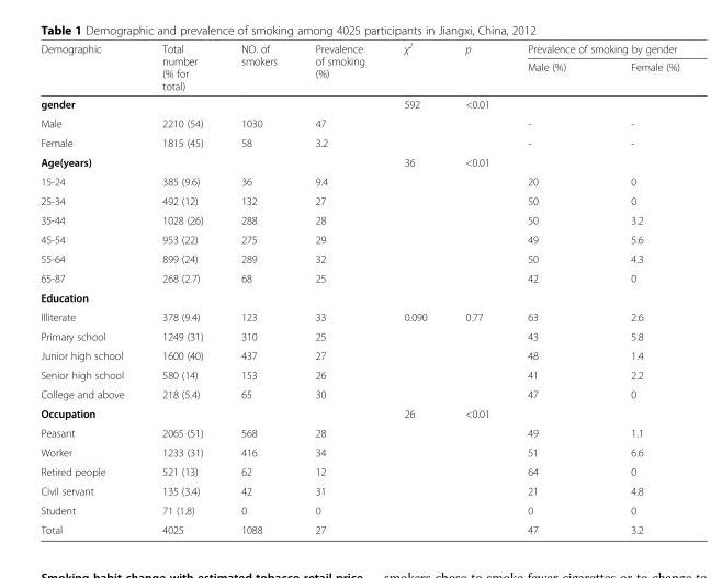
<table><thead><tr><td rowspan="2">Demographic</td><td rowspan="2">Total number (% for total)</td><td rowspan="2">NO. of smokers</td><td rowspan="2">Prevalence of smoking (%)</td><td rowspan="2">χ<sup>2</sup></td><td rowspan="2">p</td><td colspan="2">Prevalence of smoking by gender</td></tr><tr><td>Male (%)</td><td>Female (%)</td></tr></thead><tbody><tr><td>gender</td><td></td><td></td><td></td><td>592</td><td>&lt;0.01</td><td></td><td></td></tr><tr><td>Male</td><td>2210 (54)</td><td>1030</td><td>47</td><td></td><td></td><td>-</td><td>-</td></tr><tr><td>Female</td><td>1815 (45)</td><td>58</td><td>3.2</td><td></td><td></td><td>-</td><td>-</td></tr><tr><td>Age(years)</td><td></td><td></td><td></td><td>36</td><td>&lt;0.01</td><td></td><td></td></tr><tr><td>15-24</td><td>385 (9.6)</td><td>36</td><td>9.4</td><td></td><td></td><td>20</td><td>0</td></tr><tr><td>25-34</td><td>492 (12)</td><td>132</td><td>27</td><td></td><td></td><td>50</td><td>0</td></tr><tr><td>35-44</td><td>1028 (26)</td><td>288</td><td>28</td><td></td><td></td><td>50</td><td>3.2</td></tr><tr><td>45-54</td><td>953 (22)</td><td>275</td><td>29</td><td></td><td></td><td>49</td><td>5.6</td></tr><tr><td>55-64</td><td>899 (24)</td><td>289</td><td>32</td><td></td><td></td><td>50</td><td>4.3</td></tr><tr><td>65-87</td><td>268 (2.7)</td><td>68</td><td>25</td><td></td><td></td><td>42</td><td>0</td></tr><tr><td colspan="8">Education</td></tr><tr><td>Illiterate</td><td>378 (9.4)</td><td>123</td><td>33</td><td>0.090</td><td>0.77</td><td>63</td><td>2.6</td></tr><tr><td>Primary school</td><td>1249 (31)</td><td>310</td><td>25</td><td></td><td></td><td>43</td><td>5.8</td></tr><tr><td>Junior high school</td><td>1600 (40)</td><td>437</td><td>27</td><td></td><td></td><td>48</td><td>1.4</td></tr><tr><td>Senior high school</td><td>580 (14)</td><td>153</td><td>26</td><td></td><td></td><td>41</td><td>2.2</td></tr><tr><td>College and above</td><td>218 (5.4)</td><td>65</td><td>30</td><td></td><td></td><td>47</td><td>0</td></tr><tr><td>Occupation</td><td></td><td></td><td></td><td>26</td><td>&lt;0.01</td><td></td><td></td></tr><tr><td>Peasant</td><td>2065 (51)</td><td>568</td><td>28</td><td></td><td></td><td>49</td><td>1.1</td></tr><tr><td>Worker</td><td>1233 (31)</td><td>416</td><td>34</td><td></td><td></td><td>51</td><td>6.6</td></tr><tr><td>Retired people</td><td>521 (13)</td><td>62</td><td>12</td><td></td><td></td><td>64</td><td>0</td></tr><tr><td>Civil servant</td><td>135 (3.4)</td><td>42</td><td>31</td><td></td><td></td><td>21</td><td>4.8</td></tr><tr><td>Student</td><td>71 (1.8)</td><td>0</td><td>0</td><td></td><td></td><td>0</td><td>0</td></tr><tr><td>Total</td><td>4025</td><td>1088</td><td>27</td><td></td><td></td><td>47</td><td>3.2</td></tr></tbody></table>